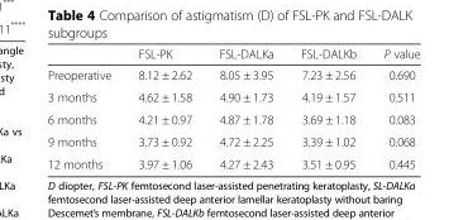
<table><thead><tr><td></td><td>FSL-PK</td><td>FSL-DALKa</td><td>FSL-DALKb</td><td>P value</td></tr></thead><tbody><tr><td>Preoperative</td><td>8.12 ± 2.62</td><td>8.05 ± 3.95</td><td>7.23 ± 2.56</td><td>0.690</td></tr><tr><td>3 months</td><td>4.62 ± 1.58</td><td>4.90 ± 1.73</td><td>4.19 ± 1.57</td><td>0.511</td></tr><tr><td>6 months</td><td>4.21 ± 0.97</td><td>4.87 ± 1.78</td><td>3.69 ± 1.18</td><td>0.083</td></tr><tr><td>9 months</td><td>3.73 ± 0.92</td><td>4.72 ± 2.25</td><td>3.39 ± 1.02</td><td>0.068</td></tr><tr><td>12 months</td><td>3.97 ± 1.06</td><td>4.27 ± 2.43</td><td>3.51 ± 0.95</td><td>0.445</td></tr></tbody></table>